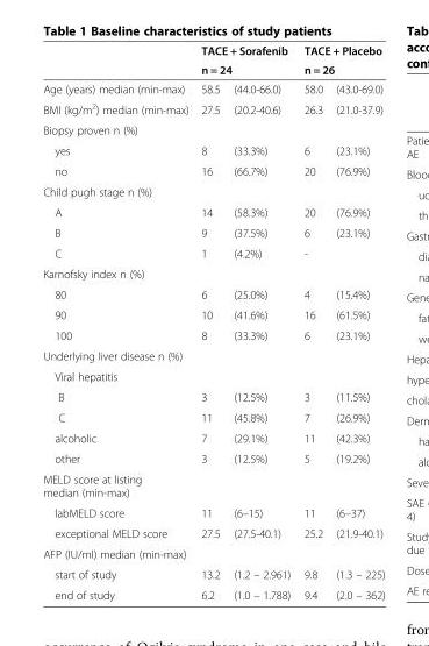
<table><thead><tr><td rowspan="3">Age (years) median (min-max)</td><td rowspan="2" colspan="2">TACE + Sorafenib n = 24</td><td rowspan="2" colspan="2">TACE + Placebo n = 26</td></tr><tr></tr><tr><td>58.5</td><td>(44.0-66.0)</td><td>58.0</td><td>(43.0-69.0)</td></tr></thead><tbody><tr><td>BMI (kg/m<sup>2</sup>) median (min-max)</td><td>27.5</td><td>(20.2-40.6)</td><td>26.3</td><td>(21.0-37.9)</td></tr><tr><td colspan="5">Biopsy proven n (%)</td></tr><tr><td>yes</td><td>8</td><td>(33.3%)</td><td>6</td><td>(23.1%)</td></tr><tr><td>no</td><td>16</td><td>(66.7%)</td><td>20</td><td>(76.9%)</td></tr><tr><td colspan="5">Child pugh stage n (%)</td></tr><tr><td>A</td><td>14</td><td>(58.3%)</td><td>20</td><td>(76.9%)</td></tr><tr><td>B</td><td>9</td><td>(37.5%)</td><td>6</td><td>(23.1%)</td></tr><tr><td>C</td><td>1</td><td>(4.2%)</td><td>-</td><td></td></tr><tr><td colspan="5">Karnofsky index n (%)</td></tr><tr><td>80</td><td>6</td><td>(25.0%)</td><td>4</td><td>(15.4%)</td></tr><tr><td>90</td><td>10</td><td>(41.6%)</td><td>16</td><td>(61.5%)</td></tr><tr><td>100</td><td>8</td><td>(33.3%)</td><td>6</td><td>(23.1%)</td></tr><tr><td colspan="5">Underlying liver disease n (%)</td></tr><tr><td colspan="5">Viral hepatitis</td></tr><tr><td>B</td><td>3</td><td>(12.5%)</td><td>3</td><td>(11.5%)</td></tr><tr><td>C</td><td>11</td><td>(45.8%)</td><td>7</td><td>(26.9%)</td></tr><tr><td>alcoholic</td><td>7</td><td>(29.1%)</td><td>11</td><td>(42.3%)</td></tr><tr><td>other</td><td>3</td><td>(12.5%)</td><td>5</td><td>(19.2%)</td></tr><tr><td colspan="5">MELD score at listing median (min-max)</td></tr><tr><td>labMELD score</td><td>11</td><td>(6–15)</td><td>11</td><td>(6–37)</td></tr><tr><td>exceptional MELD score</td><td>27.5</td><td>(27.5-40.1)</td><td>25.2</td><td>(21.9-40.1)</td></tr><tr><td colspan="5">AFP (IU/ml) median (min-max)</td></tr><tr><td>start of study</td><td>13.2</td><td>(1.2 – 2.961)</td><td>9.8</td><td>(1.3 – 225)</td></tr><tr><td>end of study</td><td>6.2</td><td>(1.0 – 1.788)</td><td>9.4</td><td>(2.0 – 362)</td></tr></tbody></table>